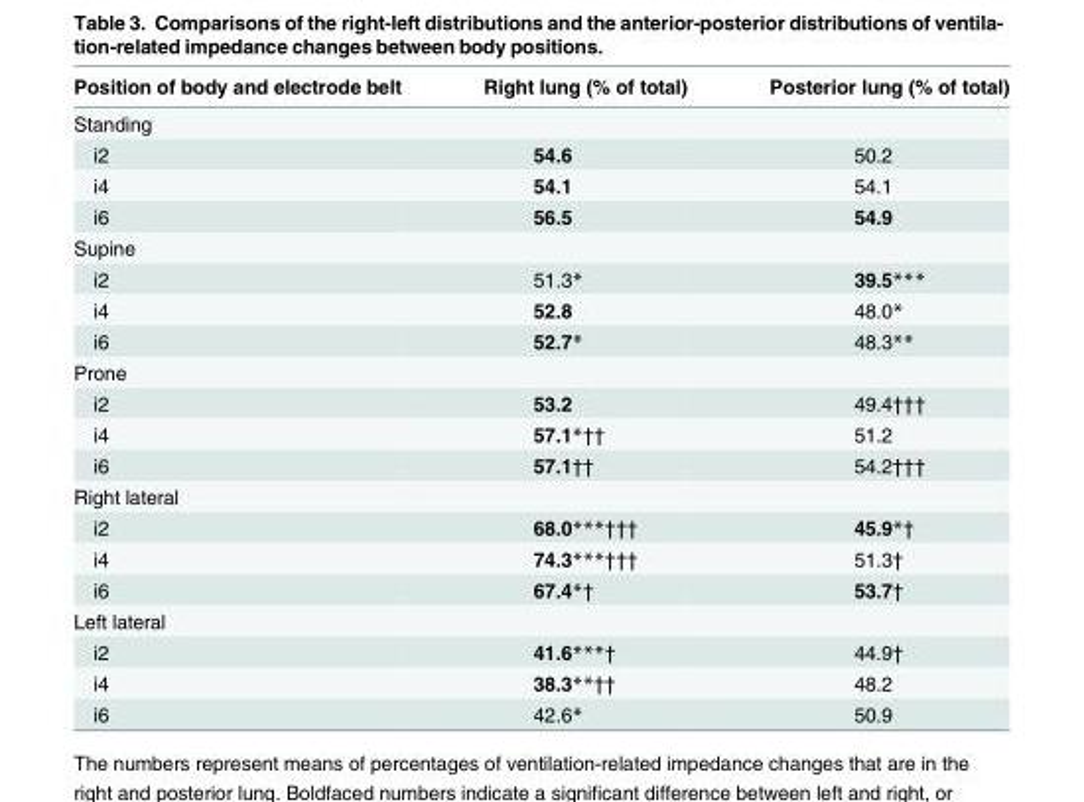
<table><thead><tr><td>Position of body and electrode belt</td><td>Right lung (% of total)</td><td>Posterior lung (% of total)</td></tr></thead><tbody><tr><td colspan="3">Standing</td></tr><tr><td>i2</td><td>54.6</td><td>50.2</td></tr><tr><td>i4</td><td>54.1</td><td>54.1</td></tr><tr><td>i6</td><td>56.5</td><td>54.9</td></tr><tr><td colspan="3">Supine</td></tr><tr><td>i2</td><td>51.3*</td><td>39.5***</td></tr><tr><td>i4</td><td>52.8</td><td>48.0*</td></tr><tr><td>i6</td><td>52.7*</td><td>48.3**</td></tr><tr><td colspan="3">Prone</td></tr><tr><td>i2</td><td>53.2</td><td>49.4†††</td></tr><tr><td>i4</td><td>57.1*††</td><td>51.2</td></tr><tr><td>i6</td><td>57.1††</td><td>54.2†††</td></tr><tr><td colspan="3">Right lateral</td></tr><tr><td>i2</td><td>68.0***†††</td><td>45.9*†</td></tr><tr><td>i4</td><td>74.3***†††</td><td>51.3†</td></tr><tr><td>i6</td><td>67.4*†</td><td>53.7†</td></tr><tr><td colspan="3">Left lateral</td></tr><tr><td>i2</td><td>41.6***†</td><td>44.9†</td></tr><tr><td>i4</td><td>38.3**††</td><td>48.2</td></tr><tr><td>i6</td><td>42.6*</td><td>50.9</td></tr></tbody></table>